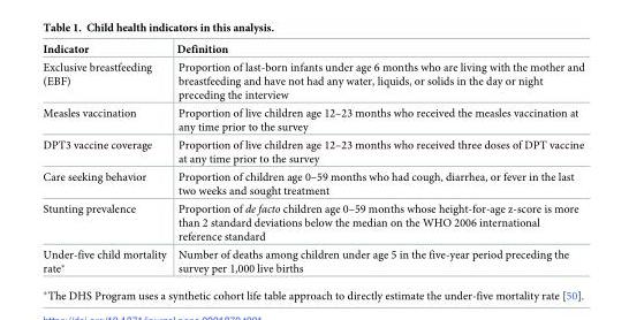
<table><thead><tr><td>Indicator</td><td>Definition</td></tr></thead><tbody><tr><td>Exclusive breastfeeding (EBF)</td><td>Proportion of last-born infants under age 6 months who are living with the mother and breastfeeding and have not had any water, liquids, or solids in the day or night preceding the interview</td></tr><tr><td>Measles vaccination</td><td>Proportion of live children age 12–23 months who received the measles vaccination at any time prior to the survey</td></tr><tr><td>DPT3 vaccine coverage</td><td>Proportion of live children age 12–23 months who received three doses of DPT vaccine at any time prior to the survey</td></tr><tr><td>Care seeking behavior</td><td>Proportion of children age 0–59 months who had cough, diarrhea, or fever in the last two weeks and sought treatment</td></tr><tr><td>Stunting prevalence</td><td>Proportion of de facto children age 0–59 months whose height-for-age z-score is more than 2 standard deviations below the median on the WHO 2006 international reference standard</td></tr><tr><td>Under-five child mortality rate*</td><td>Number of deaths among children under age 5 in the five-year period preceding the survey per 1,000 live births</td></tr></tbody></table>